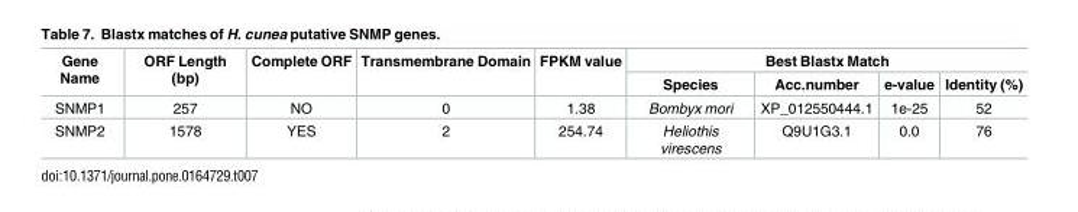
<table><thead><tr><td rowspan="2">Gene Name</td><td rowspan="2">ORF Length (bp)</td><td rowspan="2">Complete ORF</td><td rowspan="2">Transmembrane Domain</td><td rowspan="2">FPKM value</td><td colspan="4">Best Blastx Match</td></tr><tr><td>Species</td><td>Acc.number</td><td>e-value</td><td>Identity (%)</td></tr></thead><tbody><tr><td>SNMP1</td><td>257</td><td>NO</td><td>0</td><td>1.38</td><td>Bombyx mori</td><td>XP_012550444.1</td><td>1e-25</td><td>52</td></tr><tr><td>SNMP2</td><td>1578</td><td>YES</td><td>2</td><td>254.74</td><td>Heliothis virescens</td><td>Q9U1G3.1</td><td>0.0</td><td>76</td></tr></tbody></table>